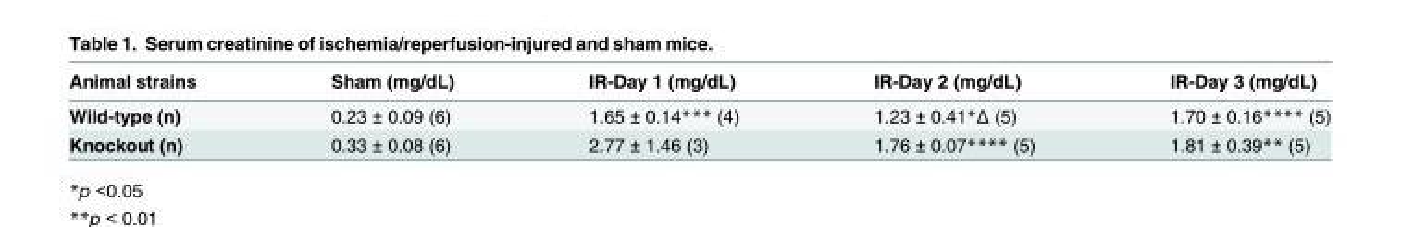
<table><thead><tr><td>Animal strains</td><td>Sham (mg/dL)</td><td>IR-Day 1 (mg/dL)</td><td>IR-Day 2 (mg/dL)</td><td>IR-Day 3 (mg/dL)</td></tr></thead><tbody><tr><td>Wild-type (n)</td><td>0.23 ± 0.09 (6)</td><td>1.65 ± 0.14*** (4)</td><td>1.23 ± 0.41*Δ (5)</td><td>1.70 ± 0.16**** (5)</td></tr><tr><td>Knockout (n)</td><td>0.33 ± 0.08 (6)</td><td>2.77 ± 1.46 (3)</td><td>1.76 ± 0.07**** (5)</td><td>1.81 ± 0.39** (5)</td></tr></tbody></table>